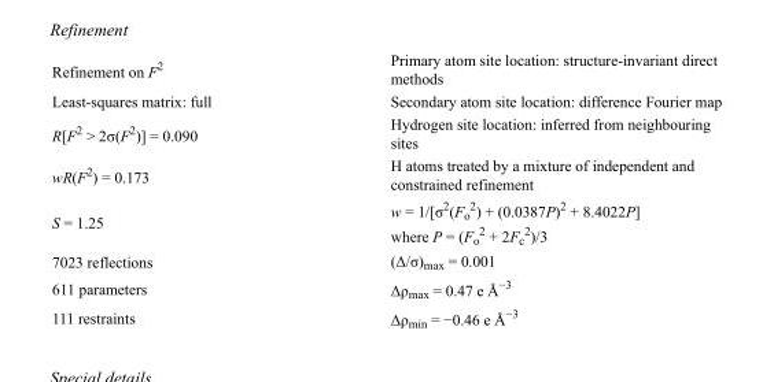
<table><tbody><tr><td>Refinement on F<sup>2</sup></td><td>Primary atom site location: structure-invariant direct methods</td></tr><tr><td>Least-squares matrix: full</td><td>Secondary atom site location: difference Fourier map</td></tr><tr><td>R[F<sup>2</sup> &gt; 2σ(F<sup>2</sup>)] = 0.090</td><td>Hydrogen site location: inferred from neighbouring sites</td></tr><tr><td>wR(F<sup>2</sup>) = 0.173</td><td>H atoms treated by a mixture of independent and constrained refinement</td></tr><tr><td>S = 1.25</td><td>w = 1/[σ<sup>2</sup>(F<sub>o</sub> <sup>2</sup>) + (0.0387P)<sup>2</sup> + 8.4022P] where P = (F<sub>o</sub> <sup>2</sup> + 2F<sub>c</sub> <sup>2</sup>)/3</td></tr><tr><td>7023 reflections</td><td>(Δ/σ)<sub>max</sub> = 0.001</td></tr><tr><td>611 parameters</td><td>Δρ<sub>max</sub> = 0.47 e Å<sup>−3</sup></td></tr><tr><td>111 restraints</td><td>Δρ<sub>min</sub> = −0.46 e Å<sup>−3</sup></td></tr></tbody></table>